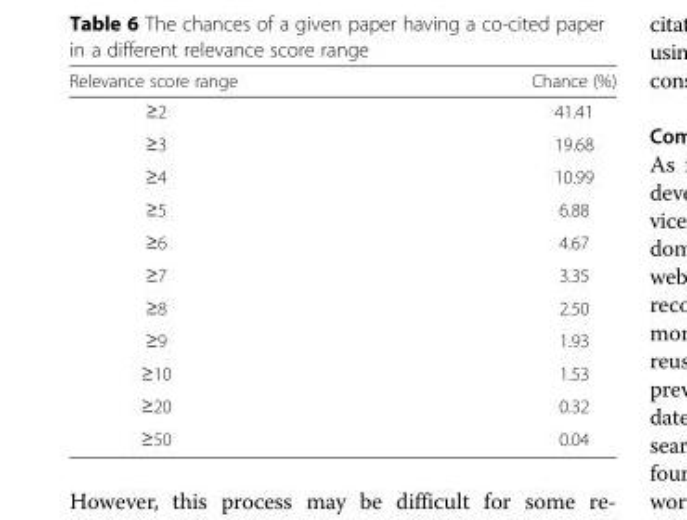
<table><thead><tr><td>Relevance score range</td><td>Chance (%)</td></tr></thead><tbody><tr><td>≥2</td><td>41.41</td></tr><tr><td>≥3</td><td>19.68</td></tr><tr><td>≥4</td><td>10.99</td></tr><tr><td>≥5</td><td>6.88</td></tr><tr><td>≥6</td><td>4.67</td></tr><tr><td>≥7</td><td>3.35</td></tr><tr><td>≥8</td><td>2.50</td></tr><tr><td>≥9</td><td>1.93</td></tr><tr><td>≥10</td><td>1.53</td></tr><tr><td>≥20</td><td>0.32</td></tr><tr><td>≥50</td><td>0.04</td></tr></tbody></table>